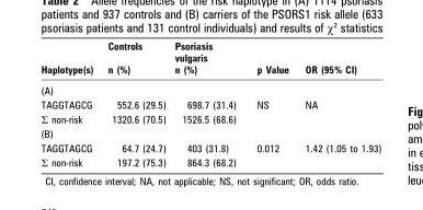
<table><thead><tr><td rowspan="2">Haplotype(s)</td><td rowspan="2">Controls n (%)</td><td rowspan="2">Psoriasis vulgaris n (%)</td><td rowspan="2">p Value</td><td rowspan="2">OR (95% CI)</td></tr><tr></tr></thead><tbody><tr><td colspan="5">(A)</td></tr><tr><td>TAGGTAGCG</td><td>552.6 (29.5)</td><td>698.7 (31.4)</td><td>NS</td><td>NA</td></tr><tr><td>Σ non-risk</td><td>1320.6 (70.5)</td><td>1526.5 (68.6)</td><td></td><td></td></tr><tr><td colspan="5">(B)</td></tr><tr><td>TAGGTAGCG</td><td>64.7 (24.7)</td><td>403 (31.8)</td><td>0.012</td><td>1.42 (1.05 to 1.93)</td></tr><tr><td>Σ non-risk</td><td>197.2 (75.3)</td><td>864.3 (68.2)</td><td></td><td></td></tr></tbody></table>